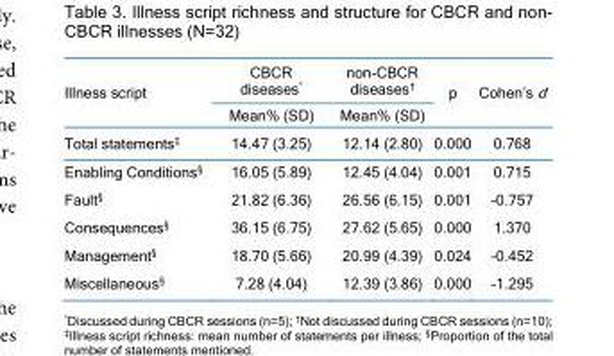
<table><thead><tr><td rowspan="2">Illness script</td><td rowspan="2">CBCR diseases* Mean% (SD)</td><td rowspan="2">non-CBCR diseases<sup>†</sup> Mean% (SD)</td><td rowspan="2">p</td><td rowspan="2">Cohen’s d</td></tr><tr></tr></thead><tbody><tr><td>Total statements<sup>‡</sup></td><td>14.47 (3.25)</td><td>12.14 (2.80)</td><td>0.000</td><td>0.768</td></tr><tr><td>Enabling Conditions<sup>§</sup></td><td>16.05 (5.89)</td><td>12.45 (4.04)</td><td>0.001</td><td>0.715</td></tr><tr><td>Fault<sup>§</sup></td><td>21.82 (6.36)</td><td>26.56 (6.15)</td><td>0.001</td><td>-0.757</td></tr><tr><td>Consequences<sup>§</sup></td><td>36.15 (6.75)</td><td>27.62 (5.65)</td><td>0.000</td><td>1.370</td></tr><tr><td>Management<sup>§</sup></td><td>18.70 (5.66)</td><td>20.99 (4.39)</td><td>0.024</td><td>-0.452</td></tr><tr><td>Miscellaneous<sup>§</sup></td><td>7.28 (4.04)</td><td>12.39 (3.86)</td><td>0.000</td><td>-1.295</td></tr></tbody></table>